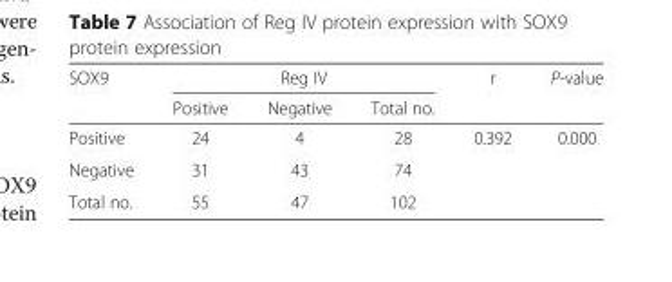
<table><thead><tr><td rowspan="2">SOX9</td><td colspan="3">Reg IV</td><td rowspan="2">r</td><td rowspan="2">P-value</td></tr><tr><td>Positive</td><td>Negative</td><td>Total no.</td></tr></thead><tbody><tr><td>Positive</td><td>24</td><td>4</td><td>28</td><td rowspan="3">0.392</td><td rowspan="3">0.000</td></tr><tr><td>Negative</td><td>31</td><td>43</td><td>74</td></tr><tr><td>Total no.</td><td>55</td><td>47</td><td>102</td></tr></tbody></table>